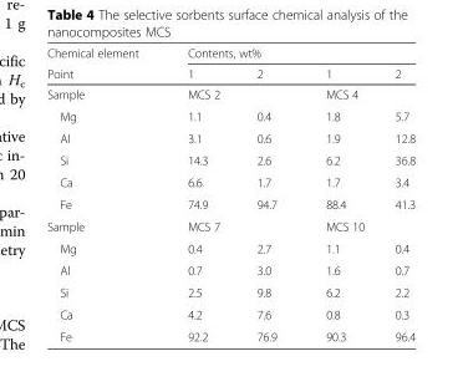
<table><thead><tr><td rowspan="2">Chemical element Point</td><td colspan="4">Contents, wt%</td></tr><tr><td>1</td><td>2</td><td>1</td><td>2</td></tr></thead><tbody><tr><td>Sample</td><td colspan="2">MCS 2</td><td colspan="2">MCS 4</td></tr><tr><td>Mg</td><td>1.1</td><td>0.4</td><td>1.8</td><td>5.7</td></tr><tr><td>Al</td><td>3.1</td><td>0.6</td><td>1.9</td><td>12.8</td></tr><tr><td>Si</td><td>14.3</td><td>2.6</td><td>6.2</td><td>36.8</td></tr><tr><td>Ca</td><td>6.6</td><td>1.7</td><td>1.7</td><td>3.4</td></tr><tr><td>Fe</td><td>74.9</td><td>94.7</td><td>88.4</td><td>41.3</td></tr><tr><td>Sample</td><td colspan="2">MCS 7</td><td colspan="2">MCS 10</td></tr><tr><td>Mg</td><td>0.4</td><td>2.7</td><td>1.1</td><td>0.4</td></tr><tr><td>Al</td><td>0.7</td><td>3.0</td><td>1.6</td><td>0.7</td></tr><tr><td>Si</td><td>2.5</td><td>9.8</td><td>6.2</td><td>2.2</td></tr><tr><td>Ca</td><td>4.2</td><td>7.6</td><td>0.8</td><td>0.3</td></tr><tr><td>Fe</td><td>92.2</td><td>76.9</td><td>90.3</td><td>96.4</td></tr></tbody></table>